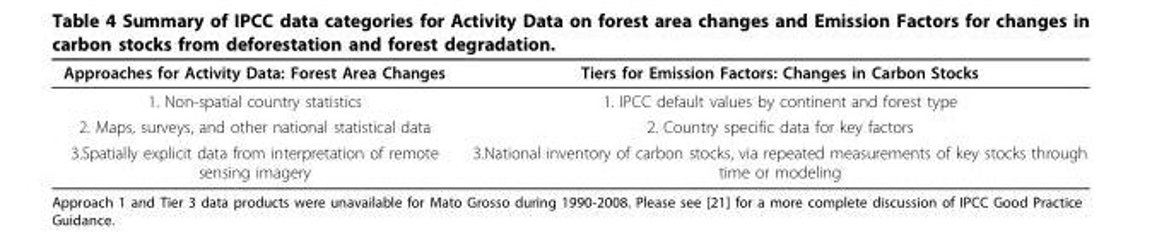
<table><thead><tr><td>Approaches for Activity Data: Forest Area Changes</td><td>Tiers for Emission Factors: Changes in Carbon Stocks</td></tr></thead><tbody><tr><td>1. Non-spatial country statistics</td><td>1. IPCC default values by continent and forest type</td></tr><tr><td>2. Maps, surveys, and other national statistical data</td><td>2. Country specific data for key factors</td></tr><tr><td>3.Spatially explicit data from interpretation of remote sensing imagery</td><td>3.National inventory of carbon stocks, via repeated measurements of key stocks through time or modeling</td></tr></tbody></table>